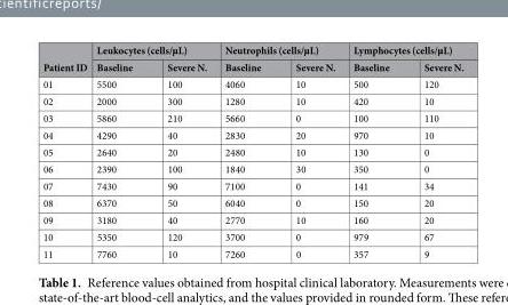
<table><thead><tr><td rowspan="2">Patient ID</td><td colspan="2">Leukocytes (cells/µL)</td><td colspan="2">Neutrophils (cells/µL)</td><td colspan="2">Lymphocytes (cells/µL)</td></tr><tr><td>Baseline</td><td>Severe N.</td><td>Baseline</td><td>Severe N.</td><td>Baseline</td><td>Severe N.</td></tr></thead><tbody><tr><td>01</td><td>5500</td><td>100</td><td>4060</td><td>10</td><td>500</td><td>120</td></tr><tr><td>02</td><td>2000</td><td>300</td><td>1280</td><td>10</td><td>420</td><td>10</td></tr><tr><td>03</td><td>5860</td><td>210</td><td>5660</td><td>0</td><td>100</td><td>110</td></tr><tr><td>04</td><td>4290</td><td>40</td><td>2830</td><td>20</td><td>970</td><td>10</td></tr><tr><td>05</td><td>2640</td><td>20</td><td>2480</td><td>10</td><td>130</td><td>0</td></tr><tr><td>06</td><td>2390</td><td>100</td><td>1840</td><td>30</td><td>350</td><td>0</td></tr><tr><td>07</td><td>7430</td><td>90</td><td>7100</td><td>0</td><td>141</td><td>34</td></tr><tr><td>08</td><td>6370</td><td>50</td><td>6040</td><td>0</td><td>150</td><td>20</td></tr><tr><td>09</td><td>3180</td><td>40</td><td>2770</td><td>10</td><td>160</td><td>20</td></tr><tr><td>10</td><td>5350</td><td>120</td><td>3700</td><td>0</td><td>979</td><td>67</td></tr><tr><td>11</td><td>7760</td><td>10</td><td>7260</td><td>0</td><td>357</td><td>9</td></tr></tbody></table>